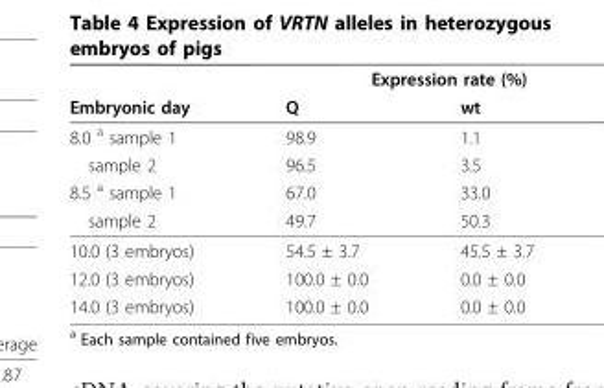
<table><thead><tr><td rowspan="2">Embryonic day</td><td colspan="2">Expression rate (%)</td></tr><tr><td>Q</td><td>wt</td></tr></thead><tbody><tr><td>8.0 <sup>a</sup> sample 1</td><td>98.9</td><td>1.1</td></tr><tr><td>sample 2</td><td>96.5</td><td>3.5</td></tr><tr><td>8.5 <sup>a</sup> sample 1</td><td>67.0</td><td>33.0</td></tr><tr><td>sample 2</td><td>49.7</td><td>50.3</td></tr><tr><td>10.0 (3 embryos)</td><td>54.5 ± 3.7</td><td>45.5 ± 3.7</td></tr><tr><td>12.0 (3 embryos)</td><td>100.0 ± 0.0</td><td>0.0 ± 0.0</td></tr><tr><td>14.0 (3 embryos)</td><td>100.0 ± 0.0</td><td>0.0 ± 0.0</td></tr></tbody></table>